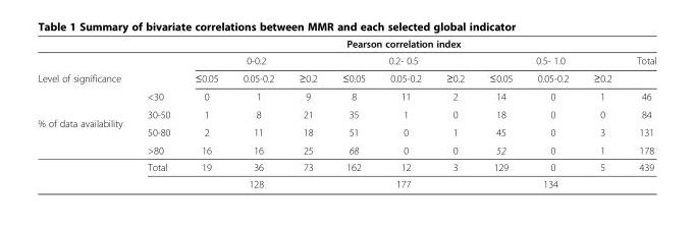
<table><thead><tr><td></td><td></td><td colspan="9">Pearson correlation index</td><td rowspan="3">Total</td></tr><tr><td rowspan="2" colspan="2">Level of significance</td><td colspan="3">0-0.2</td><td colspan="3">0.2- 0.5</td><td colspan="3">0.5- 1.0</td></tr><tr><td>≤0.05</td><td>0.05-0.2</td><td>≥0.2</td><td>≤0.05</td><td>0.05-0.2</td><td>≥0.2</td><td>≤0.05</td><td>0.05-0.2</td><td>≥0.2</td></tr></thead><tbody><tr><td></td><td>&lt;30</td><td>0</td><td>1</td><td>9</td><td>8</td><td>11</td><td>2</td><td>14</td><td>0</td><td>1</td><td>46</td></tr><tr><td rowspan="5">% of data availability</td><td>30-50</td><td>1</td><td>8</td><td>21</td><td>35</td><td>1</td><td>0</td><td>18</td><td>0</td><td>0</td><td>84</td></tr><tr><td>50-80</td><td>2</td><td>11</td><td>18</td><td>51</td><td>0</td><td>1</td><td>45</td><td>0</td><td>3</td><td>131</td></tr><tr><td>&gt;80</td><td>16</td><td>16</td><td>25</td><td>68</td><td>0</td><td>0</td><td>52</td><td>0</td><td>1</td><td>178</td></tr><tr><td>Total</td><td>19</td><td>36</td><td>73</td><td>162</td><td>12</td><td>3</td><td>129</td><td>0</td><td>5</td><td>439</td></tr><tr><td></td><td colspan="3">128</td><td colspan="3">177</td><td colspan="3">134</td><td></td></tr></tbody></table>